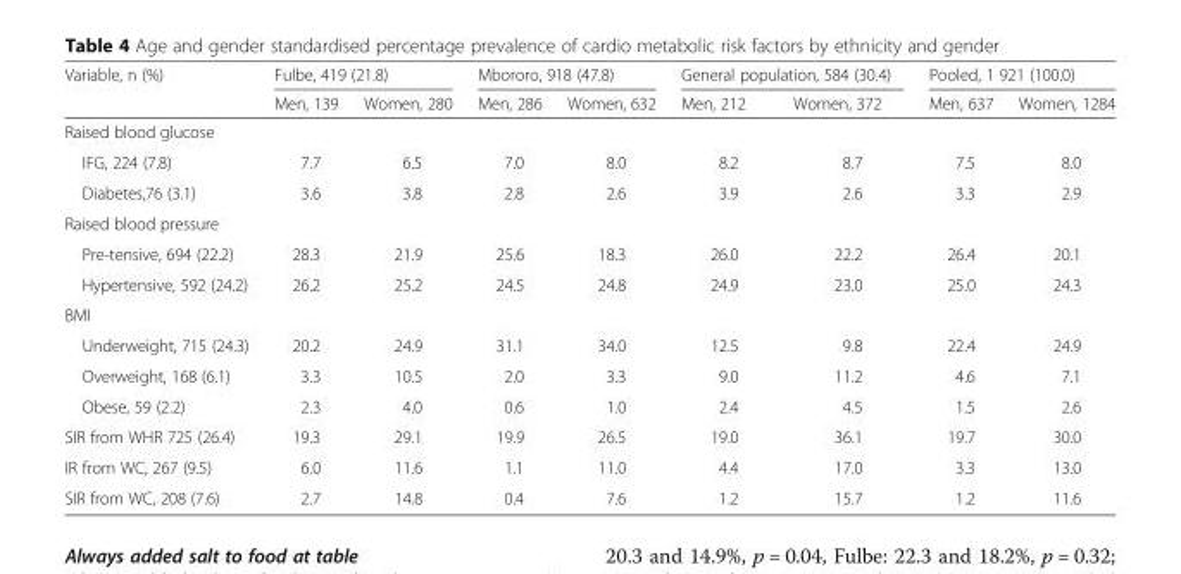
<table><thead><tr><td rowspan="2">Variable, n (%)</td><td colspan="2">Fulbe, 419 (21.8)</td><td colspan="2">Mbororo, 918 (47.8)</td><td colspan="2">General population, 584 (30.4)</td><td colspan="2">Pooled, 1 921 (100.0)</td></tr><tr><td>Men, 139</td><td>Women, 280</td><td>Men, 286</td><td>Women, 632</td><td>Men, 212</td><td>Women, 372</td><td>Men, 637</td><td>Women, 1284</td></tr></thead><tbody><tr><td colspan="9">Raised blood glucose</td></tr><tr><td>IFG, 224 (7.8)</td><td>7.7</td><td>6.5</td><td>7.0</td><td>8.0</td><td>8.2</td><td>8.7</td><td>7.5</td><td>8.0</td></tr><tr><td>Diabetes,76 (3.1)</td><td>3.6</td><td>3.8</td><td>2.8</td><td>2.6</td><td>3.9</td><td>2.6</td><td>3.3</td><td>2.9</td></tr><tr><td colspan="9">Raised blood pressure</td></tr><tr><td>Pre-tensive, 694 (22.2)</td><td>28.3</td><td>21.9</td><td>25.6</td><td>18.3</td><td>26.0</td><td>22.2</td><td>26.4</td><td>20.1</td></tr><tr><td>Hypertensive, 592 (24.2)</td><td>26.2</td><td>25.2</td><td>24.5</td><td>24.8</td><td>24.9</td><td>23.0</td><td>25.0</td><td>24.3</td></tr><tr><td colspan="9">BMI</td></tr><tr><td>Underweight, 715 (24.3)</td><td>20.2</td><td>24.9</td><td>31.1</td><td>34.0</td><td>12.5</td><td>9.8</td><td>22.4</td><td>24.9</td></tr><tr><td>Overweight, 168 (6.1)</td><td>3.3</td><td>10.5</td><td>2.0</td><td>3.3</td><td>9.0</td><td>11.2</td><td>4.6</td><td>7.1</td></tr><tr><td>Obese, 59 (2.2)</td><td>2.3</td><td>4.0</td><td>0.6</td><td>1.0</td><td>2.4</td><td>4.5</td><td>1.5</td><td>2.6</td></tr><tr><td>SIR from WHR 725 (26.4)</td><td>19.3</td><td>29.1</td><td>19.9</td><td>26.5</td><td>19.0</td><td>36.1</td><td>19.7</td><td>30.0</td></tr><tr><td>IR from WC, 267 (9.5)</td><td>6.0</td><td>11.6</td><td>1.1</td><td>11.0</td><td>4.4</td><td>17.0</td><td>3.3</td><td>13.0</td></tr><tr><td>SIR from WC, 208 (7.6)</td><td>2.7</td><td>14.8</td><td>0.4</td><td>7.6</td><td>1.2</td><td>15.7</td><td>1.2</td><td>11.6</td></tr></tbody></table>